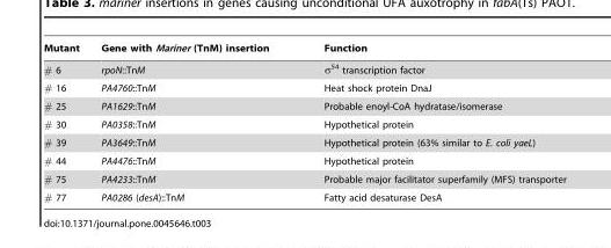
<table><thead><tr><td>Mutant</td><td>Gene with Mariner (TnM) insertion</td><td>Function</td></tr></thead><tbody><tr><td># 6</td><td>rpoN::TnM</td><td>σ<sup>54</sup> transcription factor</td></tr><tr><td># 16</td><td>PA4760::TnM</td><td>Heat shock protein DnaJ</td></tr><tr><td># 25</td><td>PA1629::TnM</td><td>Probable enoyl-CoA hydratase/isomerase</td></tr><tr><td># 30</td><td>PA0358::TnM</td><td>Hypothetical protein</td></tr><tr><td># 39</td><td>PA3649::TnM</td><td>Hypothetical protein (63% similar to E. coli yaeL)</td></tr><tr><td># 44</td><td>PA4476::TnM</td><td>Hypothetical protein</td></tr><tr><td># 75</td><td>PA4233::TnM</td><td>Probable major facilitator superfamily (MFS) transporter</td></tr><tr><td># 77</td><td>PA0286 (desA)::TnM</td><td>Fatty acid desaturase DesA</td></tr></tbody></table>